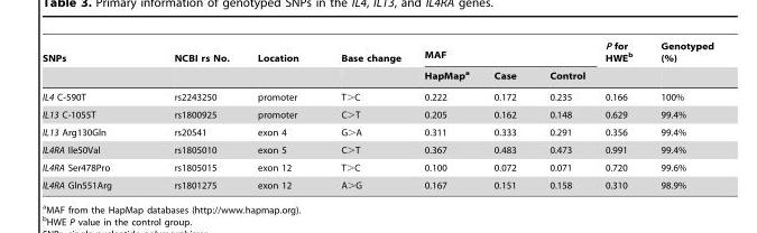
<table><thead><tr><td rowspan="2">SNPs</td><td rowspan="2">NCBI rs No.</td><td rowspan="2">Location</td><td rowspan="2">Base change</td><td colspan="3">MAF</td><td rowspan="2">P for HWE<sup>b</sup></td><td rowspan="2">Genotyped (%)</td></tr><tr><td>HapMap<sup>a</sup></td><td>Case</td><td>Control</td></tr></thead><tbody><tr><td>IL4 C-590T</td><td>rs2243250</td><td>promoter</td><td>T&gt;C</td><td>0.222</td><td>0.172</td><td>0.235</td><td>0.166</td><td>100%</td></tr><tr><td>IL13 C-1055T</td><td>rs1800925</td><td>promoter</td><td>C&gt;T</td><td>0.205</td><td>0.162</td><td>0.148</td><td>0.629</td><td>99.4%</td></tr><tr><td>IL13 Arg130Gln</td><td>rs20541</td><td>exon 4</td><td>G&gt;A</td><td>0.311</td><td>0.333</td><td>0.291</td><td>0.356</td><td>99.4%</td></tr><tr><td>IL4RA Ile50Val</td><td>rs1805010</td><td>exon 5</td><td>C&gt;T</td><td>0.367</td><td>0.483</td><td>0.473</td><td>0.991</td><td>99.4%</td></tr><tr><td>IL4RA Ser478Pro</td><td>rs1805015</td><td>exon 12</td><td>T&gt;C</td><td>0.100</td><td>0.072</td><td>0.071</td><td>0.720</td><td>99.6%</td></tr><tr><td>IL4RA Gln551Arg</td><td>rs1801275</td><td>exon 12</td><td>A&gt;G</td><td>0.167</td><td>0.151</td><td>0.158</td><td>0.310</td><td>98.9%</td></tr></tbody></table>